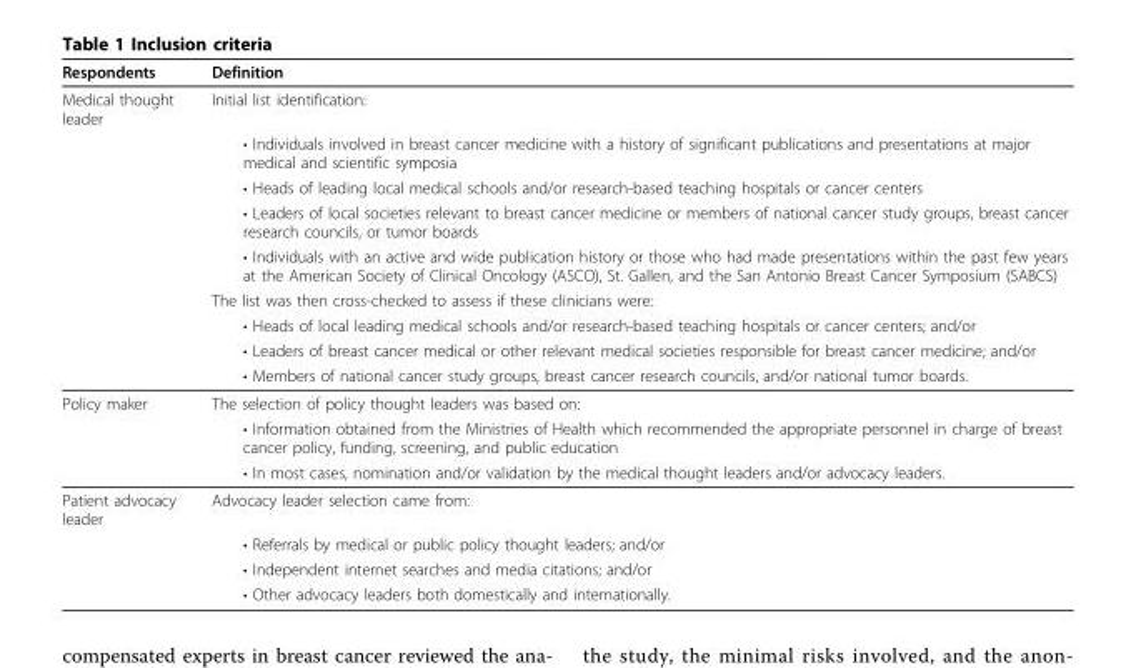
<table><thead><tr><td>Respondents</td><td>Definition</td></tr></thead><tbody><tr><td rowspan="9">Medical thought leader</td><td>Initial list identification:</td></tr><tr><td>• Individuals involved in breast cancer medicine with a history of significant publications and presentations at major medical and scientific symposia</td></tr><tr><td>• Heads of leading local medical schools and/or research-based teaching hospitals or cancer centers</td></tr><tr><td>• Leaders of local societies relevant to breast cancer medicine or members of national cancer study groups, breast cancer research councils, or tumor boards</td></tr><tr><td>• Individuals with an active and wide publication history or those who had made presentations within the past few years at the American Society of Clinical Oncology (ASCO), St. Gallen, and the San Antonio Breast Cancer Symposium (SABCS)</td></tr><tr><td>The list was then cross-checked to assess if these clinicians were:</td></tr><tr><td>• Heads of local leading medical schools and/or research-based teaching hospitals or cancer centers; and/or</td></tr><tr><td>• Leaders of breast cancer medical or other relevant medical societies responsible for breast cancer medicine; and/or</td></tr><tr><td>• Members of national cancer study groups, breast cancer research councils, and/or national tumor boards.</td></tr><tr><td rowspan="3">Policy maker</td><td>The selection of policy thought leaders was based on:</td></tr><tr><td>• Information obtained from the Ministries of Health which recommended the appropriate personnel in charge of breast cancer policy, funding, screening, and public education</td></tr><tr><td>• In most cases, nomination and/or validation by the medical thought leaders and/or advocacy leaders.</td></tr><tr><td rowspan="4">Patient advocacy leader</td><td>Advocacy leader selection came from:</td></tr><tr><td>• Referrals by medical or public policy thought leaders; and/or</td></tr><tr><td>• Independent internet searches and media citations; and/or</td></tr><tr><td>• Other advocacy leaders both domestically and internationally.</td></tr></tbody></table>